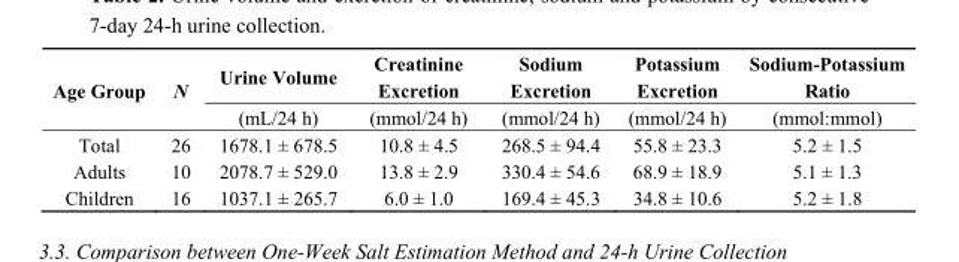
<table><thead><tr><td rowspan="2">Age Group</td><td rowspan="2">N</td><td rowspan="2">Urine Volume (mL/24 h)</td><td rowspan="2">Creatinine Excretion (mmol/24 h)</td><td rowspan="2">Sodium Excretion (mmol/24 h)</td><td rowspan="2">Potassium Excretion (mmol/24 h)</td><td rowspan="2">Sodium-Potassium Ratio (mmol:mmol)</td></tr><tr></tr></thead><tbody><tr><td>Total</td><td>26</td><td>1678.1 ± 678.5</td><td>10.8 ± 4.5</td><td>268.5 ± 94.4</td><td>55.8 ± 23.3</td><td>5.2 ± 1.5</td></tr><tr><td>Adults</td><td>10</td><td>2078.7 ± 529.0</td><td>13.8 ± 2.9</td><td>330.4 ± 54.6</td><td>68.9 ± 18.9</td><td>5.1 ± 1.3</td></tr><tr><td>Children</td><td>16</td><td>1037.1 ± 265.7</td><td>6.0 ± 1.0</td><td>169.4 ± 45.3</td><td>34.8 ± 10.6</td><td>5.2 ± 1.8</td></tr></tbody></table>